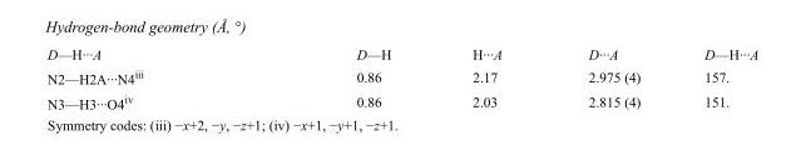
<table><tbody><tr><td>D—H···A</td><td>D—H</td><td>H···A</td><td>D···A</td><td>D—H···A</td></tr><tr><td>N2—H2A···N4<sup>iii</sup></td><td>0.86</td><td>2.17</td><td>2.975 (4)</td><td>157.</td></tr><tr><td>N3—H3···O4<sup>iv</sup></td><td>0.86</td><td>2.03</td><td>2.815 (4)</td><td>151.</td></tr></tbody></table>